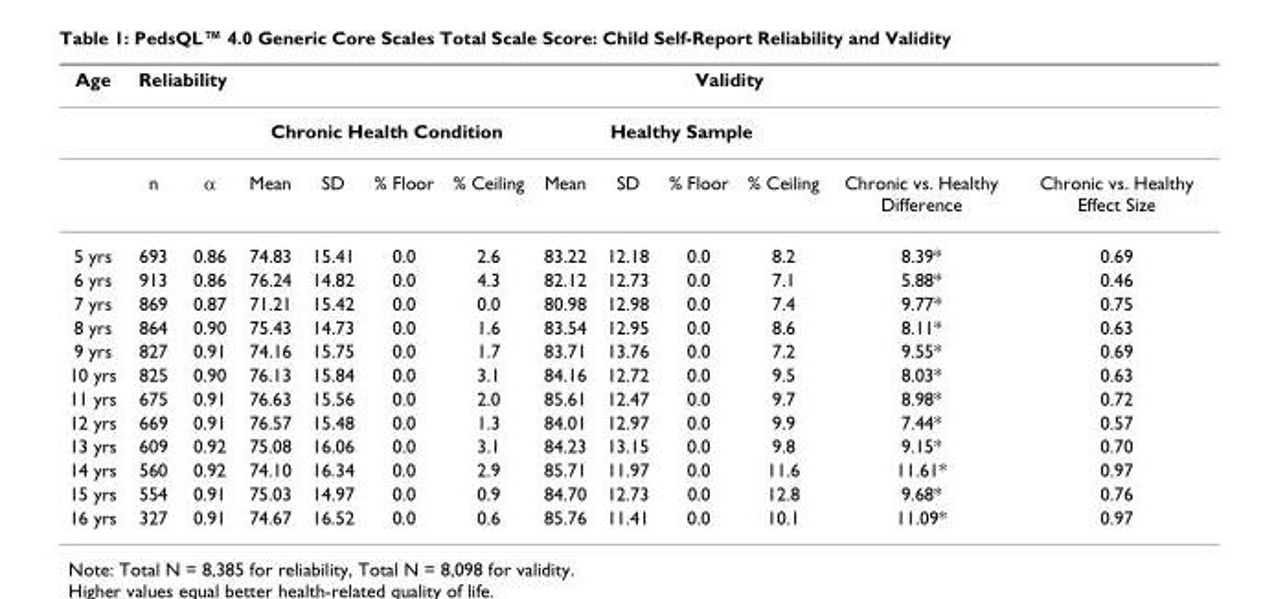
<table><thead><tr><td rowspan="3">Age</td><td colspan="2">Reliability</td><td colspan="10">Validity</td></tr><tr><td rowspan="2">n</td><td rowspan="2">α</td><td colspan="4">Chronic Health Condition</td><td colspan="4">Healthy Sample</td><td rowspan="2">Chronic vs. Healthy Difference</td><td rowspan="2">Chronic vs. Healthy Effect Size</td></tr><tr><td>Mean</td><td>SD</td><td>% Floor</td><td>% Ceiling</td><td>Mean</td><td>SD</td><td>% Floor</td><td>% Ceiling</td></tr></thead><tbody><tr><td>5 yrs</td><td>693</td><td>0.86</td><td>74.83</td><td>15.41</td><td>0.0</td><td>2.6</td><td>83.22</td><td>12.18</td><td>0.0</td><td>8.2</td><td>8.39*</td><td>0.69</td></tr><tr><td>6 yrs</td><td>913</td><td>0.86</td><td>76.24</td><td>14.82</td><td>0.0</td><td>4.3</td><td>82.12</td><td>12.73</td><td>0.0</td><td>7.1</td><td>5.88*</td><td>0.46</td></tr><tr><td>7 yrs</td><td>869</td><td>0.87</td><td>71.21</td><td>15.42</td><td>0.0</td><td>0.0</td><td>80.98</td><td>12.98</td><td>0.0</td><td>7.4</td><td>9.77*</td><td>0.75</td></tr><tr><td>8 yrs</td><td>864</td><td>0.90</td><td>75.43</td><td>14.73</td><td>0.0</td><td>1.6</td><td>83.54</td><td>12.95</td><td>0.0</td><td>8.6</td><td>8.11*</td><td>0.63</td></tr><tr><td>9 yrs</td><td>827</td><td>0.91</td><td>74.16</td><td>15.75</td><td>0.0</td><td>1.7</td><td>83.71</td><td>13.76</td><td>0.0</td><td>7.2</td><td>9.55*</td><td>0.69</td></tr><tr><td>10 yrs</td><td>825</td><td>0.90</td><td>76.13</td><td>15.84</td><td>0.0</td><td>3.1</td><td>84.16</td><td>12.72</td><td>0.0</td><td>9.5</td><td>8.03*</td><td>0.63</td></tr><tr><td>11 yrs</td><td>675</td><td>0.91</td><td>76.63</td><td>15.56</td><td>0.0</td><td>2.0</td><td>85.61</td><td>12.47</td><td>0.0</td><td>9.7</td><td>8.98*</td><td>0.72</td></tr><tr><td>12 yrs</td><td>669</td><td>0.91</td><td>76.57</td><td>15.48</td><td>0.0</td><td>1.3</td><td>84.01</td><td>12.97</td><td>0.0</td><td>9.9</td><td>7.44*</td><td>0.57</td></tr><tr><td>13 yrs</td><td>609</td><td>0.92</td><td>75.08</td><td>16.06</td><td>0.0</td><td>3.1</td><td>84.23</td><td>13.15</td><td>0.0</td><td>9.8</td><td>9.15*</td><td>0.70</td></tr><tr><td>14 yrs</td><td>560</td><td>0.92</td><td>74.10</td><td>16.34</td><td>0.0</td><td>2.9</td><td>85.71</td><td>11.97</td><td>0.0</td><td>11.6</td><td>11.61*</td><td>0.97</td></tr><tr><td>15 yrs</td><td>554</td><td>0.91</td><td>75.03</td><td>14.97</td><td>0.0</td><td>0.9</td><td>84.70</td><td>12.73</td><td>0.0</td><td>12.8</td><td>9.68*</td><td>0.76</td></tr><tr><td>16 yrs</td><td>327</td><td>0.91</td><td>74.67</td><td>16.52</td><td>0.0</td><td>0.6</td><td>85.76</td><td>11.41</td><td>0.0</td><td>10.1</td><td>11.09*</td><td>0.97</td></tr></tbody></table>